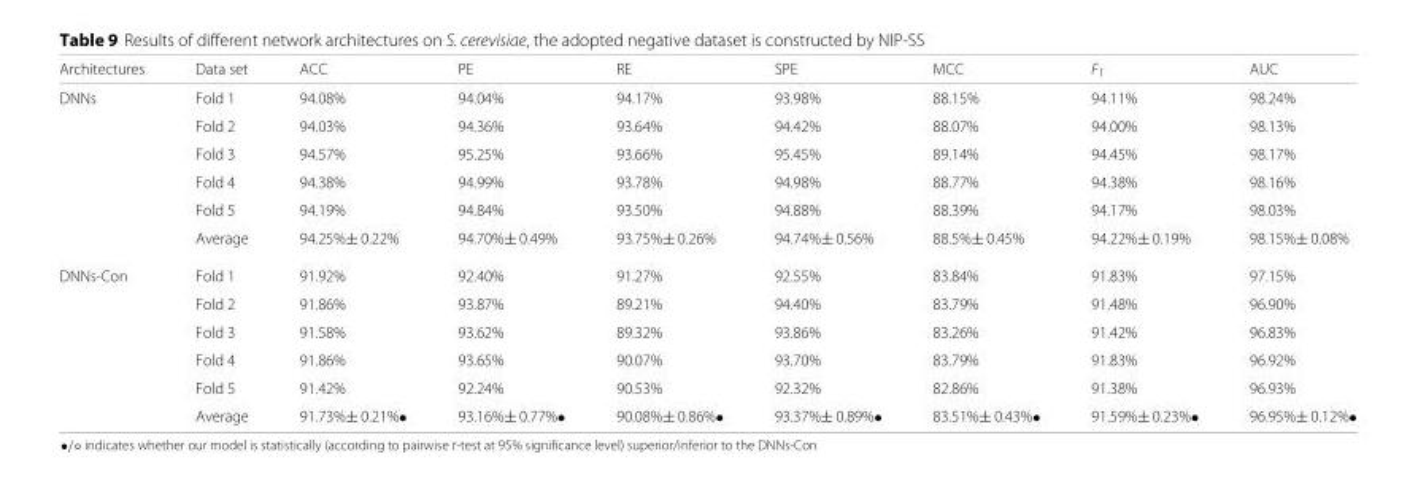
<table><thead><tr><td>Architectures</td><td>Data set</td><td>ACC</td><td>PE</td><td>RE</td><td>SPE</td><td>MCC</td><td>F<sub>1</sub></td><td>AUC</td></tr></thead><tbody><tr><td rowspan="6">DNNs</td><td>Fold 1</td><td>94.08%</td><td>94.04%</td><td>94.17%</td><td>93.98%</td><td>88.15%</td><td>94.11%</td><td>98.24%</td></tr><tr><td>Fold 2</td><td>94.03%</td><td>94.36%</td><td>93.64%</td><td>94.42%</td><td>88.07%</td><td>94.00%</td><td>98.13%</td></tr><tr><td>Fold 3</td><td>94.57%</td><td>95.25%</td><td>93.66%</td><td>95.45%</td><td>89.14%</td><td>94.45%</td><td>98.17%</td></tr><tr><td>Fold 4</td><td>94.38%</td><td>94.99%</td><td>93.78%</td><td>94.98%</td><td>88.77%</td><td>94.38%</td><td>98.16%</td></tr><tr><td>Fold 5</td><td>94.19%</td><td>94.84%</td><td>93.50%</td><td>94.88%</td><td>88.39%</td><td>94.17%</td><td>98.03%</td></tr><tr><td>Average</td><td>94.25%± 0.22%</td><td>94.70%± 0.49%</td><td>93.75%± 0.26%</td><td>94.74%± 0.56%</td><td>88.5%± 0.45%</td><td>94.22%± 0.19%</td><td>98.15%± 0.08%</td></tr><tr><td rowspan="6">DNNs-Con</td><td>Fold 1</td><td>91.92%</td><td>92.40%</td><td>91.27%</td><td>92.55%</td><td>83.84%</td><td>91.83%</td><td>97.15%</td></tr><tr><td>Fold 2</td><td>91.86%</td><td>93.87%</td><td>89.21%</td><td>94.40%</td><td>83.79%</td><td>91.48%</td><td>96.90%</td></tr><tr><td>Fold 3</td><td>91.58%</td><td>93.62%</td><td>89.32%</td><td>93.86%</td><td>83.26%</td><td>91.42%</td><td>96.83%</td></tr><tr><td>Fold 4</td><td>91.86%</td><td>93.65%</td><td>90.07%</td><td>93.70%</td><td>83.79%</td><td>91.83%</td><td>96.92%</td></tr><tr><td>Fold 5</td><td>91.42%</td><td>92.24%</td><td>90.53%</td><td>92.32%</td><td>82.86%</td><td>91.38%</td><td>96.93%</td></tr><tr><td>Average</td><td>91.73%± 0.21%•</td><td>93.16%± 0.77%•</td><td>90.08%± 0.86%•</td><td>93.37%± 0.89%•</td><td>83.51%± 0.43%•</td><td>91.59%± 0.23%•</td><td>96.95%± 0.12%•</td></tr></tbody></table>